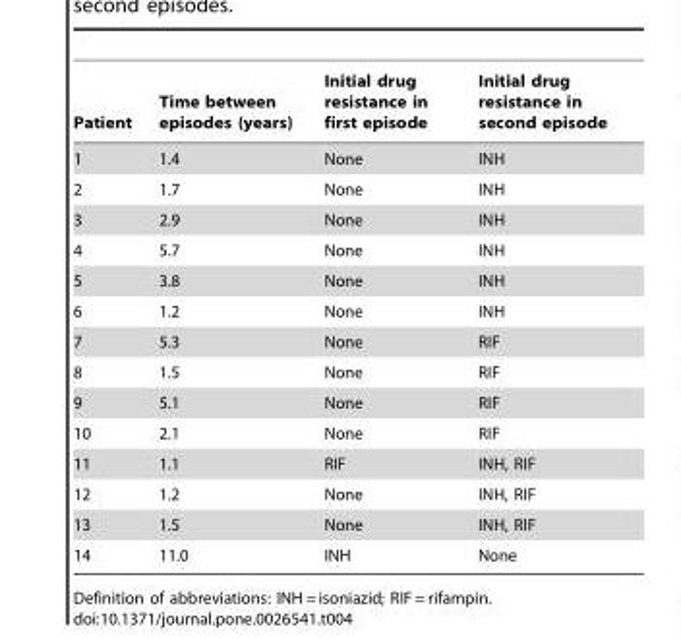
<table><thead><tr><td>Patient</td><td>Time between episodes (years)</td><td>Initial drug resistance in first episode</td><td>Initial drug resistance in second episode</td></tr></thead><tbody><tr><td>1</td><td>1.4</td><td>None</td><td>INH</td></tr><tr><td>2</td><td>1.7</td><td>None</td><td>INH</td></tr><tr><td>3</td><td>2.9</td><td>None</td><td>INH</td></tr><tr><td>4</td><td>5.7</td><td>None</td><td>INH</td></tr><tr><td>5</td><td>3.8</td><td>None</td><td>INH</td></tr><tr><td>6</td><td>1.2</td><td>None</td><td>INH</td></tr><tr><td>7</td><td>5.3</td><td>None</td><td>RIF</td></tr><tr><td>8</td><td>1.5</td><td>None</td><td>RIF</td></tr><tr><td>9</td><td>5.1</td><td>None</td><td>RIF</td></tr><tr><td>10</td><td>2.1</td><td>None</td><td>RIF</td></tr><tr><td>11</td><td>1.1</td><td>RIF</td><td>INH, RIF</td></tr><tr><td>12</td><td>1.2</td><td>None</td><td>INH, RIF</td></tr><tr><td>13</td><td>1.5</td><td>None</td><td>INH, RIF</td></tr><tr><td>14</td><td>11.0</td><td>INH</td><td>None</td></tr></tbody></table>